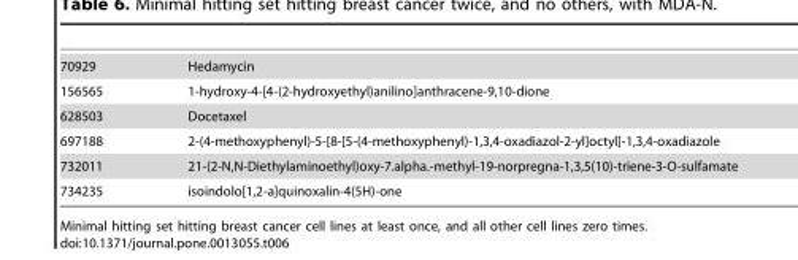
<table><tbody><tr><td>70929</td><td>Hedamycin</td></tr><tr><td>156565</td><td>1-hydroxy-4-[4-(2-hydroxyethyl)anilino]anthracene-9,10-dione</td></tr><tr><td>628503</td><td>Docetaxel</td></tr><tr><td>697188</td><td>2-(4-methoxyphenyl)-5-[8-[5-(4-methoxyphenyl)-1,3,4-oxadiazol-2-yl]octyl]-1,3,4-oxadiazole</td></tr><tr><td>732011</td><td>21-(2-N,N-Diethylaminoethyl)oxy-7.alpha.-methyl-19-norpregna-1,3,5(10)-triene-3-O-sulfamate</td></tr><tr><td>734235</td><td>isoindolo[1,2-a]quinoxalin-4(5H)-one</td></tr></tbody></table>